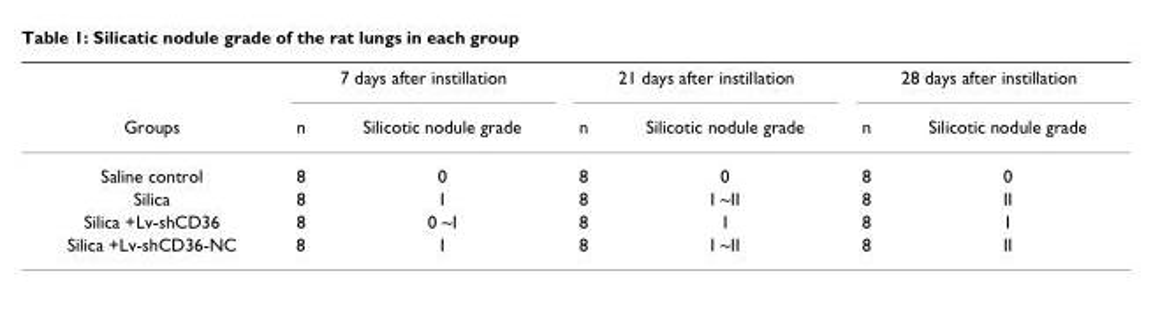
<table><thead><tr><td rowspan="2">Groups</td><td colspan="2">7 days after instillation</td><td colspan="2">21 days after instillation</td><td colspan="2">28 days after instillation</td></tr><tr><td>n</td><td>Silicotic nodule grade</td><td>n</td><td>Silicotic nodule grade</td><td>n</td><td>Silicotic nodule grade</td></tr></thead><tbody><tr><td>Saline control</td><td>8</td><td>0</td><td>8</td><td>0</td><td>8</td><td>0</td></tr><tr><td>Silica</td><td>8</td><td>I</td><td>8</td><td>I ~II</td><td>8</td><td>II</td></tr><tr><td>Silica +Lv-shCD36</td><td>8</td><td>0 ~I</td><td>8</td><td>I</td><td>8</td><td>I</td></tr><tr><td>Silica +Lv-shCD36-NC</td><td>8</td><td>I</td><td>8</td><td>I ~II</td><td>8</td><td>II</td></tr></tbody></table>